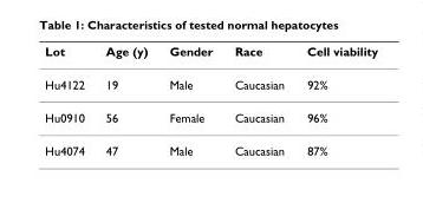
<table><thead><tr><td>Lot</td><td>Age (y)</td><td>Gender</td><td>Race</td><td>Cell viability</td></tr></thead><tbody><tr><td>Hu4122</td><td>19</td><td>Male</td><td>Caucasian</td><td>92%</td></tr><tr><td>Hu0910</td><td>56</td><td>Female</td><td>Caucasian</td><td>96%</td></tr><tr><td>Hu4074</td><td>47</td><td>Male</td><td>Caucasian</td><td>87%</td></tr></tbody></table>